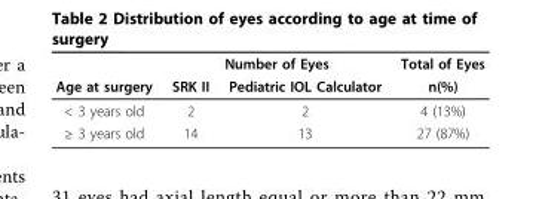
<table><thead><tr><td rowspan="2">Age at surgery</td><td colspan="2">Number of Eyes</td><td rowspan="2">Total of Eyes n(%)</td></tr><tr><td>SRK II</td><td>Pediatric IOL Calculator</td></tr></thead><tbody><tr><td>&lt; 3 years old</td><td>2</td><td>2</td><td>4 (13%)</td></tr><tr><td>≥ 3 years old</td><td>14</td><td>13</td><td>27 (87%)</td></tr></tbody></table>